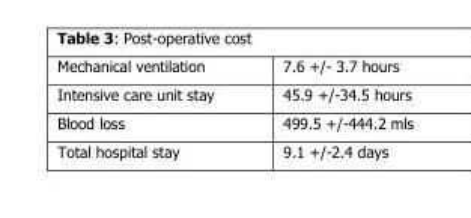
<table><tbody><tr><td>Mechanical ventilation</td><td>7.6 +/- 3.7 hours</td></tr><tr><td>Intensive care unit stay</td><td>45.9 +/-34.5 hours</td></tr><tr><td>Blood loss</td><td>499.5 +/-444.2 mls</td></tr><tr><td>Total hospital stay</td><td>9.1 +/-2.4 days</td></tr></tbody></table>